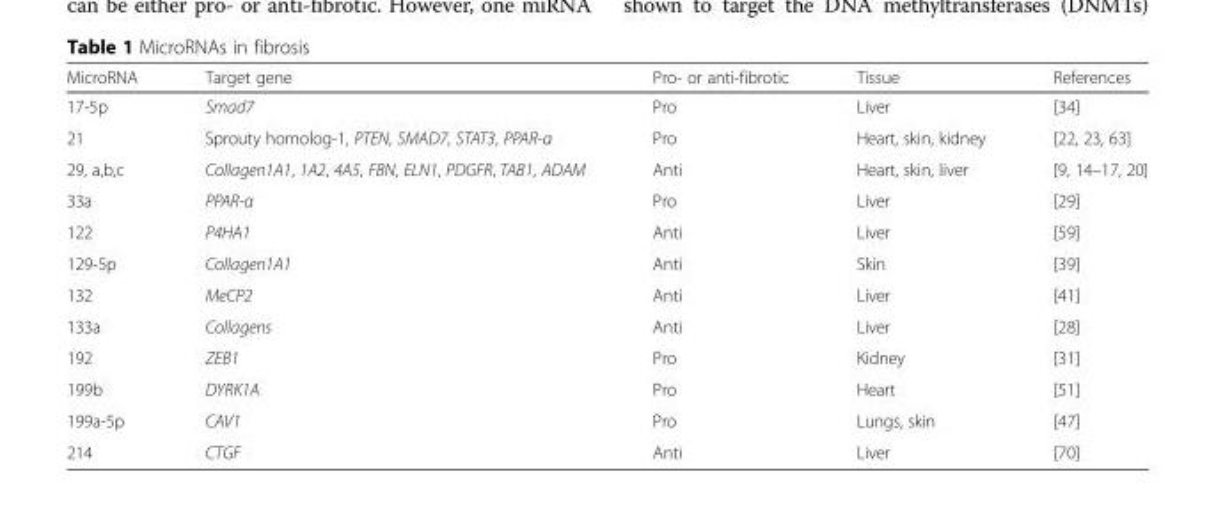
<table><thead><tr><td>MicroRNA</td><td>Target gene</td><td>Pro- or anti-fibrotic</td><td>Tissue</td><td>References</td></tr></thead><tbody><tr><td>17-5p</td><td>Smad7</td><td>Pro</td><td>Liver</td><td>[34]</td></tr><tr><td>21</td><td>Sprouty homolog-1, PTEN, SMAD7, STAT3, PPAR-α</td><td>Pro</td><td>Heart, skin, kidney</td><td>[22, 23, 63]</td></tr><tr><td>29, a,b,c</td><td>Collagen1A1, 1A2, 4A5, FBN, ELN1, PDGFR, TAB1, ADAM</td><td>Anti</td><td>Heart, skin, liver</td><td>[9, 14–17, 20]</td></tr><tr><td>33a</td><td>PPAR-α</td><td>Pro</td><td>Liver</td><td>[29]</td></tr><tr><td>122</td><td>P4HA1</td><td>Anti</td><td>Liver</td><td>[59]</td></tr><tr><td>129-5p</td><td>Collagen1A1</td><td>Anti</td><td>Skin</td><td>[39]</td></tr><tr><td>132</td><td>MeCP2</td><td>Anti</td><td>Liver</td><td>[41]</td></tr><tr><td>133a</td><td>Collagens</td><td>Anti</td><td>Liver</td><td>[28]</td></tr><tr><td>192</td><td>ZEB1</td><td>Pro</td><td>Kidney</td><td>[31]</td></tr><tr><td>199b</td><td>DYRK1A</td><td>Pro</td><td>Heart</td><td>[51]</td></tr><tr><td>199a-5p</td><td>CAV1</td><td>Pro</td><td>Lungs, skin</td><td>[47]</td></tr><tr><td>214</td><td>CTGF</td><td>Anti</td><td>Liver</td><td>[70]</td></tr></tbody></table>